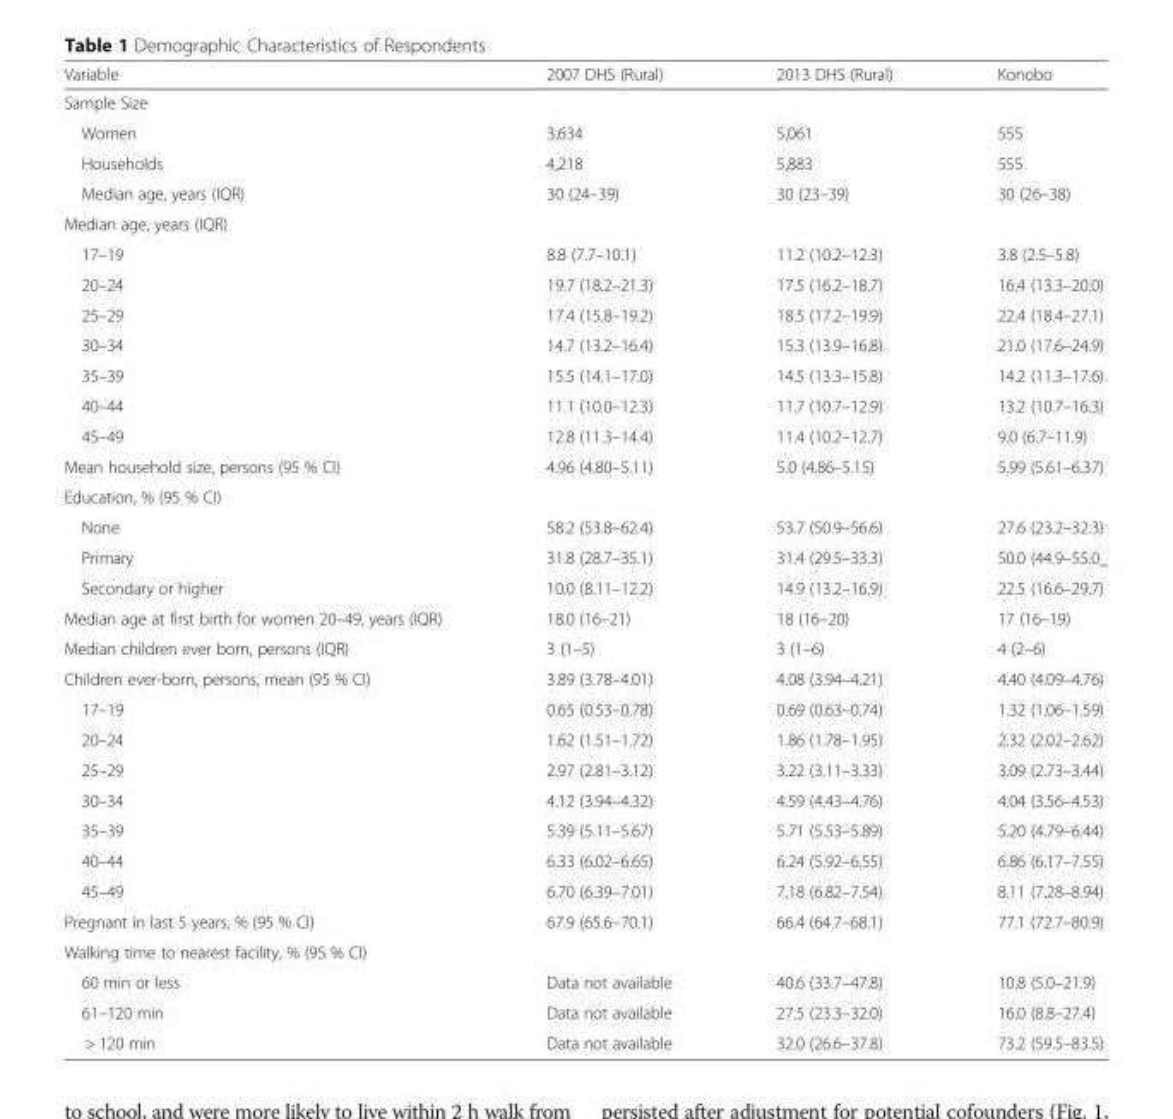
<table><thead><tr><td>Variable</td><td>2007 DHS (Rural)</td><td>2013 DHS (Rural)</td><td>Konobo</td></tr></thead><tbody><tr><td colspan="4">Sample Size</td></tr><tr><td>Women</td><td>3,634</td><td>5,061</td><td>555</td></tr><tr><td>Households</td><td>4,218</td><td>5,883</td><td>555</td></tr><tr><td>Median age, years (IQR)</td><td>30 (24–39)</td><td>30 (23–39)</td><td>30 (26–38)</td></tr><tr><td colspan="4">Median age, years (IQR)</td></tr><tr><td>17–19</td><td>8.8 (7.7–10.1)</td><td>11.2 (10.2–12.3)</td><td>3.8 (2.5–5.8)</td></tr><tr><td>20–24</td><td>19.7 (18.2–21.3)</td><td>17.5 (16.2–18.7)</td><td>16.4 (13.3–20.0)</td></tr><tr><td>25–29</td><td>17.4 (15.8–19.2)</td><td>18.5 (17.2–19.9)</td><td>22.4 (18.4–27.1)</td></tr><tr><td>30–34</td><td>14.7 (13.2–16.4)</td><td>15.3 (13.9–16.8)</td><td>21.0 (17.6–24.9)</td></tr><tr><td>35–39</td><td>15.5 (14.1–17.0)</td><td>14.5 (13.3–15.8)</td><td>14.2 (11.3–17.6)</td></tr><tr><td>40–44</td><td>11.1 (10.0–12.3)</td><td>11.7 (10.7–12.9)</td><td>13.2 (10.7–16.3)</td></tr><tr><td>45–49</td><td>12.8 (11.3–14.4)</td><td>11.4 (10.2–12.7)</td><td>9.0 (6.7–11.9)</td></tr><tr><td>Mean household size, persons (95 % CI)</td><td>4.96 (4.80–5.11)</td><td>5.0 (4.86–5.15)</td><td>5.99 (5.61–6.37)</td></tr><tr><td colspan="4">Education, % (95 % CI)</td></tr><tr><td>None</td><td>58.2 (53.8–62.4)</td><td>53.7 (50.9–56.6)</td><td>27.6 (23.2–32.3)</td></tr><tr><td>Primary</td><td>31.8 (28.7–35.1)</td><td>31.4 (29.5–33.3)</td><td>50.0 (44.9–55.0_</td></tr><tr><td>Secondary or higher</td><td>10.0 (8.11–12.2)</td><td>14.9 (13.2–16.9)</td><td>22.5 (16.6–29.7)</td></tr><tr><td>Median age at first birth for women 20–49, years (IQR)</td><td>18.0 (16–21)</td><td>18 (16–20)</td><td>17 (16–19)</td></tr><tr><td>Median children ever born, persons (IQR)</td><td>3 (1–5)</td><td>3 (1–6)</td><td>4 (2–6)</td></tr><tr><td>Children ever-born, persons, mean (95 % CI)</td><td>3.89 (3.78–4.01)</td><td>4.08 (3.94–4.21)</td><td>4.40 (4.09–4.76)</td></tr><tr><td>17–19</td><td>0.65 (0.53–0.78)</td><td>0.69 (0.63–0.74)</td><td>1.32 (1.06–1.59)</td></tr><tr><td>20–24</td><td>1.62 (1.51–1.72)</td><td>1.86 (1.78–1.95)</td><td>2.32 (2.02–2.62)</td></tr><tr><td>25–29</td><td>2.97 (2.81–3.12)</td><td>3.22 (3.11–3.33)</td><td>3.09 (2.73–3.44)</td></tr><tr><td>30–34</td><td>4.12 (3.94–4.32)</td><td>4.59 (4.43–4.76)</td><td>4.04 (3.56–4.53)</td></tr><tr><td>35–39</td><td>5.39 (5.11–5.67)</td><td>5.71 (5.53–5.89)</td><td>5.20 (4.79–6.44)</td></tr><tr><td>40–44</td><td>6.33 (6.02–6.65)</td><td>6.24 (5.92–6.55)</td><td>6.86 (6.17–7.55)</td></tr><tr><td>45–49</td><td>6.70 (6.39–7.01)</td><td>7.18 (6.82–7.54)</td><td>8.11 (7.28–8.94)</td></tr><tr><td>Pregnant in last 5 years, % (95 % CI)</td><td>67.9 (65.6–70.1)</td><td>66.4 (64.7–68.1)</td><td>77.1 (72.7–80.9)</td></tr><tr><td colspan="4">Walking time to nearest facility, % (95 % CI)</td></tr><tr><td>60 min or less</td><td>Data not available</td><td>40.6 (33.7–47.8)</td><td>10.8 (5.0–21.9)</td></tr><tr><td>61–120 min</td><td>Data not available</td><td>27.5 (23.3–32.0)</td><td>16.0 (8.8–27.4)</td></tr><tr><td>&gt; 120 min</td><td>Data not available</td><td>32.0 (26.6–37.8)</td><td>73.2 (59.5–83.5)</td></tr></tbody></table>